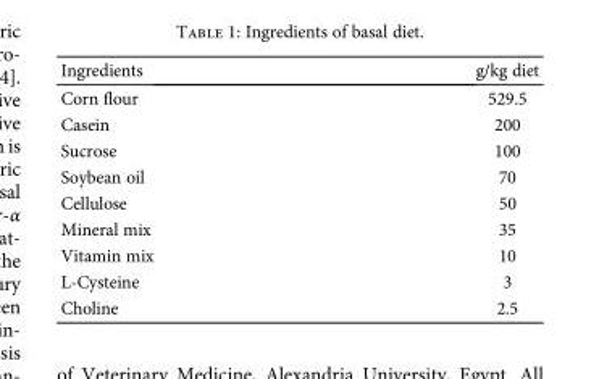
<table><thead><tr><td>Ingredients</td><td>g/kg diet</td></tr></thead><tbody><tr><td>Corn flour</td><td>529.5</td></tr><tr><td>Casein</td><td>200</td></tr><tr><td>Sucrose</td><td>100</td></tr><tr><td>Soybean oil</td><td>70</td></tr><tr><td>Cellulose</td><td>50</td></tr><tr><td>Mineral mix</td><td>35</td></tr><tr><td>Vitamin mix</td><td>10</td></tr><tr><td>L-Cysteine</td><td>3</td></tr><tr><td>Choline</td><td>2.5</td></tr></tbody></table>